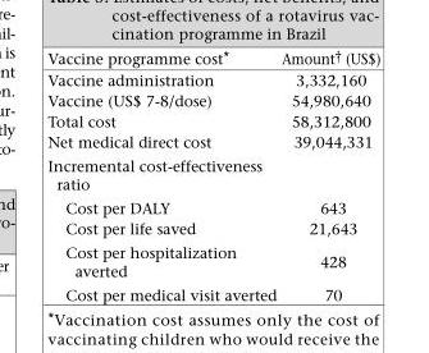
<table><thead><tr><td>Vaccine programme cost*</td><td>Amount† (US$)</td></tr></thead><tbody><tr><td>Vaccine administration</td><td>3,332,160</td></tr><tr><td>Vaccine (US$ 7-8/dose)</td><td>54,980,640</td></tr><tr><td>Total cost</td><td>58,312,800</td></tr><tr><td>Net medical direct cost</td><td>39,044,331</td></tr><tr><td colspan="2">Incremental cost-effectiveness ratio</td></tr><tr><td>Cost per DALY</td><td>643</td></tr><tr><td>Cost per life saved</td><td>21,643</td></tr><tr><td>Cost per hospitalization averted</td><td>428</td></tr><tr><td>Cost per medical visit averted</td><td>70</td></tr></tbody></table>